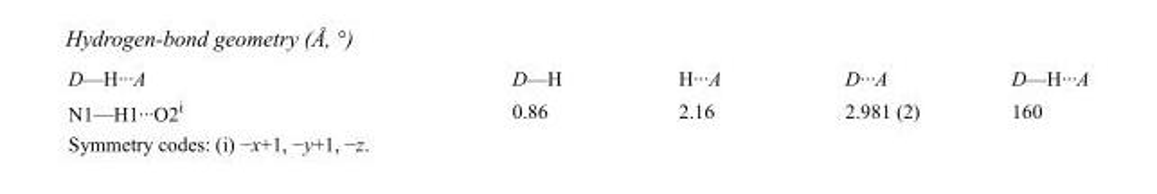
<table><tbody><tr><td>D—H···A</td><td>D—H</td><td>H···A</td><td>D···A</td><td>D—H···A</td></tr><tr><td>N1—H1···O2<sup>i</sup></td><td>0.86</td><td>2.16</td><td>2.981 (2)</td><td>160</td></tr></tbody></table>